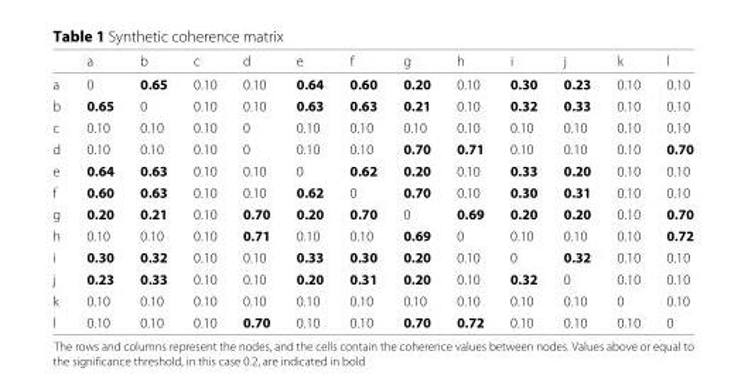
<table><thead><tr><td></td><td>a</td><td>b</td><td>c</td><td>d</td><td>e</td><td>f</td><td>g</td><td>h</td><td>i</td><td>j</td><td>k</td><td>l</td></tr></thead><tbody><tr><td>a</td><td>0</td><td>0.65</td><td>0.10</td><td>0.10</td><td>0.64</td><td>0.60</td><td>0.20</td><td>0.10</td><td>0.30</td><td>0.23</td><td>0.10</td><td>0.10</td></tr><tr><td>b</td><td>0.65</td><td>0</td><td>0.10</td><td>0.10</td><td>0.63</td><td>0.63</td><td>0.21</td><td>0.10</td><td>0.32</td><td>0.33</td><td>0.10</td><td>0.10</td></tr><tr><td>c</td><td>0.10</td><td>0.10</td><td>0.10</td><td>0</td><td>0.10</td><td>0.10</td><td>0.10</td><td>0.10</td><td>0.10</td><td>0.10</td><td>0.10</td><td>0.10</td></tr><tr><td>d</td><td>0.10</td><td>0.10</td><td>0.10</td><td>0</td><td>0.10</td><td>0.10</td><td>0.70</td><td>0.71</td><td>0.10</td><td>0.10</td><td>0.10</td><td>0.70</td></tr><tr><td>e</td><td>0.64</td><td>0.63</td><td>0.10</td><td>0.10</td><td>0</td><td>0.62</td><td>0.20</td><td>0.10</td><td>0.33</td><td>0.20</td><td>0.10</td><td>0.10</td></tr><tr><td>f</td><td>0.60</td><td>0.63</td><td>0.10</td><td>0.10</td><td>0.62</td><td>0</td><td>0.70</td><td>0.10</td><td>0.30</td><td>0.31</td><td>0.10</td><td>0.10</td></tr><tr><td>g</td><td>0.20</td><td>0.21</td><td>0.10</td><td>0.70</td><td>0.20</td><td>0.70</td><td>0</td><td>0.69</td><td>0.20</td><td>0.20</td><td>0.10</td><td>0.70</td></tr><tr><td>h</td><td>0.10</td><td>0.10</td><td>0.10</td><td>0.71</td><td>0.10</td><td>0.10</td><td>0.69</td><td>0</td><td>0.10</td><td>0.10</td><td>0.10</td><td>0.72</td></tr><tr><td>i</td><td>0.30</td><td>0.32</td><td>0.10</td><td>0.10</td><td>0.33</td><td>0.30</td><td>0.20</td><td>0.10</td><td>0</td><td>0.32</td><td>0.10</td><td>0.10</td></tr><tr><td>j</td><td>0.23</td><td>0.33</td><td>0.10</td><td>0.10</td><td>0.20</td><td>0.31</td><td>0.20</td><td>0.10</td><td>0.32</td><td>0</td><td>0.10</td><td>0.10</td></tr><tr><td>k</td><td>0.10</td><td>0.10</td><td>0.10</td><td>0.10</td><td>0.10</td><td>0.10</td><td>0.10</td><td>0.10</td><td>0.10</td><td>0.10</td><td>0</td><td>0.10</td></tr><tr><td>l</td><td>0.10</td><td>0.10</td><td>0.10</td><td>0.70</td><td>0.10</td><td>0.10</td><td>0.70</td><td>0.72</td><td>0.10</td><td>0.10</td><td>0.10</td><td>0</td></tr></tbody></table>